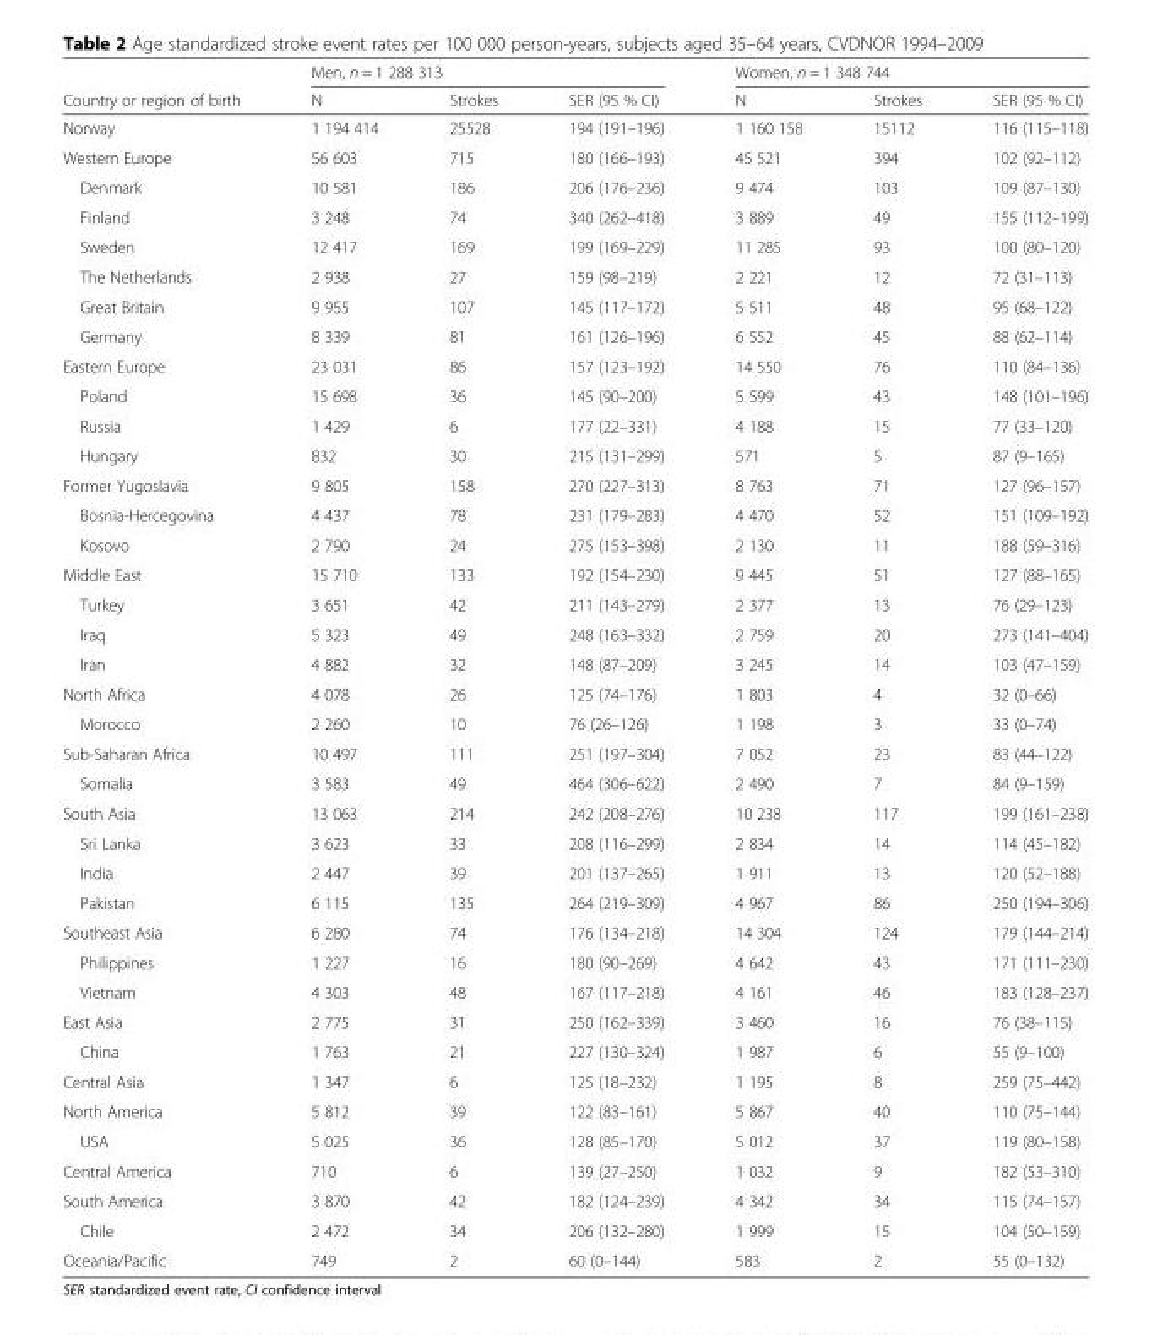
<table><thead><tr><td rowspan="2">Country or region of birth</td><td colspan="3">Men, n = 1 288 313</td><td colspan="3">Women, n = 1 348 744</td></tr><tr><td>N</td><td>Strokes</td><td>SER (95 % CI)</td><td>N</td><td>Strokes</td><td>SER (95 % CI)</td></tr></thead><tbody><tr><td>Norway</td><td>1 194 414</td><td>25528</td><td>194 (191–196)</td><td>1 160 158</td><td>15112</td><td>116 (115–118)</td></tr><tr><td>Western Europe</td><td>56 603</td><td>715</td><td>180 (166–193)</td><td>45 521</td><td>394</td><td>102 (92–112)</td></tr><tr><td>Denmark</td><td>10 581</td><td>186</td><td>206 (176–236)</td><td>9 474</td><td>103</td><td>109 (87–130)</td></tr><tr><td>Finland</td><td>3 248</td><td>74</td><td>340 (262–418)</td><td>3 889</td><td>49</td><td>155 (112–199)</td></tr><tr><td>Sweden</td><td>12 417</td><td>169</td><td>199 (169–229)</td><td>11 285</td><td>93</td><td>100 (80–120)</td></tr><tr><td>The Netherlands</td><td>2 938</td><td>27</td><td>159 (98–219)</td><td>2 221</td><td>12</td><td>72 (31–113)</td></tr><tr><td>Great Britain</td><td>9 955</td><td>107</td><td>145 (117–172)</td><td>5 511</td><td>48</td><td>95 (68–122)</td></tr><tr><td>Germany</td><td>8 339</td><td>81</td><td>161 (126–196)</td><td>6 552</td><td>45</td><td>88 (62–114)</td></tr><tr><td>Eastern Europe</td><td>23 031</td><td>86</td><td>157 (123–192)</td><td>14 550</td><td>76</td><td>110 (84–136)</td></tr><tr><td>Poland</td><td>15 698</td><td>36</td><td>145 (90–200)</td><td>5 599</td><td>43</td><td>148 (101–196)</td></tr><tr><td>Russia</td><td>1 429</td><td>6</td><td>177 (22–331)</td><td>4 188</td><td>15</td><td>77 (33–120)</td></tr><tr><td>Hungary</td><td>832</td><td>30</td><td>215 (131–299)</td><td>571</td><td>5</td><td>87 (9–165)</td></tr><tr><td>Former Yugoslavia</td><td>9 805</td><td>158</td><td>270 (227–313)</td><td>8 763</td><td>71</td><td>127 (96–157)</td></tr><tr><td>Bosnia-Hercegovina</td><td>4 437</td><td>78</td><td>231 (179–283)</td><td>4 470</td><td>52</td><td>151 (109–192)</td></tr><tr><td>Kosovo</td><td>2 790</td><td>24</td><td>275 (153–398)</td><td>2 130</td><td>11</td><td>188 (59–316)</td></tr><tr><td>Middle East</td><td>15 710</td><td>133</td><td>192 (154–230)</td><td>9 445</td><td>51</td><td>127 (88–165)</td></tr><tr><td>Turkey</td><td>3 651</td><td>42</td><td>211 (143–279)</td><td>2 377</td><td>13</td><td>76 (29–123)</td></tr><tr><td>Iraq</td><td>5 323</td><td>49</td><td>248 (163–332)</td><td>2 759</td><td>20</td><td>273 (141–404)</td></tr><tr><td>Iran</td><td>4 882</td><td>32</td><td>148 (87–209)</td><td>3 245</td><td>14</td><td>103 (47–159)</td></tr><tr><td>North Africa</td><td>4 078</td><td>26</td><td>125 (74–176)</td><td>1 803</td><td>4</td><td>32 (0–66)</td></tr><tr><td>Morocco</td><td>2 260</td><td>10</td><td>76 (26–126)</td><td>1 198</td><td>3</td><td>33 (0–74)</td></tr><tr><td>Sub-Saharan Africa</td><td>10 497</td><td>111</td><td>251 (197–304)</td><td>7 052</td><td>23</td><td>83 (44–122)</td></tr><tr><td>Somalia</td><td>3 583</td><td>49</td><td>464 (306–622)</td><td>2 490</td><td>7</td><td>84 (9–159)</td></tr><tr><td>South Asia</td><td>13 063</td><td>214</td><td>242 (208–276)</td><td>10 238</td><td>117</td><td>199 (161–238)</td></tr><tr><td>Sri Lanka</td><td>3 623</td><td>33</td><td>208 (116–299)</td><td>2 834</td><td>14</td><td>114 (45–182)</td></tr><tr><td>India</td><td>2 447</td><td>39</td><td>201 (137–265)</td><td>1 911</td><td>13</td><td>120 (52–188)</td></tr><tr><td>Pakistan</td><td>6 115</td><td>135</td><td>264 (219–309)</td><td>4 967</td><td>86</td><td>250 (194–306)</td></tr><tr><td>Southeast Asia</td><td>6 280</td><td>74</td><td>176 (134–218)</td><td>14 304</td><td>124</td><td>179 (144–214)</td></tr><tr><td>Philippines</td><td>1 227</td><td>16</td><td>180 (90–269)</td><td>4 642</td><td>43</td><td>171 (111–230)</td></tr><tr><td>Vietnam</td><td>4 303</td><td>48</td><td>167 (117–218)</td><td>4 161</td><td>46</td><td>183 (128–237)</td></tr><tr><td>East Asia</td><td>2 775</td><td>31</td><td>250 (162–339)</td><td>3 460</td><td>16</td><td>76 (38–115)</td></tr><tr><td>China</td><td>1 763</td><td>21</td><td>227 (130–324)</td><td>1 987</td><td>6</td><td>55 (9–100)</td></tr><tr><td>Central Asia</td><td>1 347</td><td>6</td><td>125 (18–232)</td><td>1 195</td><td>8</td><td>259 (75–442)</td></tr><tr><td>North America</td><td>5 812</td><td>39</td><td>122 (83–161)</td><td>5 867</td><td>40</td><td>110 (75–144)</td></tr><tr><td>USA</td><td>5 025</td><td>36</td><td>128 (85–170)</td><td>5 012</td><td>37</td><td>119 (80–158)</td></tr><tr><td>Central America</td><td>710</td><td>6</td><td>139 (27–250)</td><td>1 032</td><td>9</td><td>182 (53–310)</td></tr><tr><td>South America</td><td>3 870</td><td>42</td><td>182 (124–239)</td><td>4 342</td><td>34</td><td>115 (74–157)</td></tr><tr><td>Chile</td><td>2 472</td><td>34</td><td>206 (132–280)</td><td>1 999</td><td>15</td><td>104 (50–159)</td></tr><tr><td>Oceania/Pacific</td><td>749</td><td>2</td><td>60 (0–144)</td><td>583</td><td>2</td><td>55 (0–132)</td></tr></tbody></table>